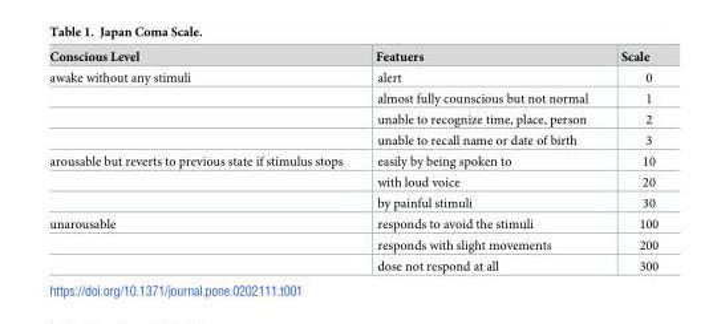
<table><thead><tr><td>Conscious Level</td><td>Featuers</td><td>Scale</td></tr></thead><tbody><tr><td rowspan="4">awake without any stimuli</td><td>alert</td><td>0</td></tr><tr><td>almost fully counscious but not normal</td><td>1</td></tr><tr><td>unable to recognize time, place, person</td><td>2</td></tr><tr><td>unable to recall name or date of birth</td><td>3</td></tr><tr><td rowspan="3">arousable but reverts to previous state if stimulus stops</td><td>easily by being spoken to</td><td>10</td></tr><tr><td>with loud voice</td><td>20</td></tr><tr><td>by painful stimuli</td><td>30</td></tr><tr><td rowspan="3">unarousable</td><td>responds to avoid the stimuli</td><td>100</td></tr><tr><td>responds with slight movements</td><td>200</td></tr><tr><td>dose not respond at all</td><td>300</td></tr></tbody></table>